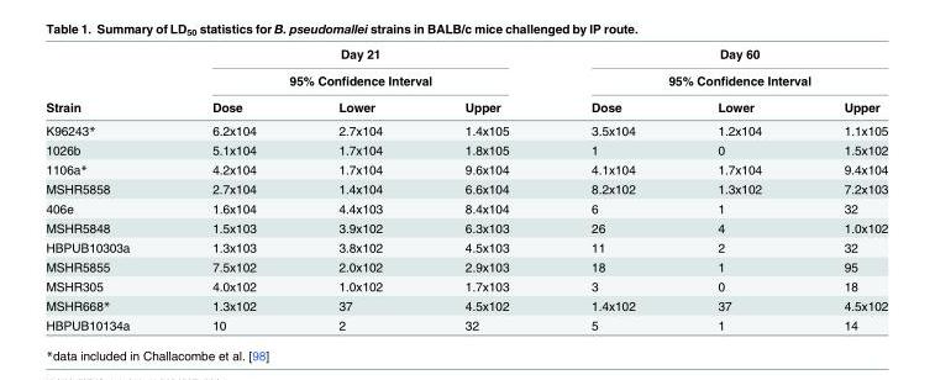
<table><thead><tr><td rowspan="3">Strain</td><td rowspan="2" colspan="3">Day 21 95% Confidence Interval</td><td rowspan="2" colspan="3">Day 60 95% Confidence Interval</td></tr><tr></tr><tr><td>Dose</td><td>Lower</td><td>Upper</td><td>Dose</td><td>Lower</td><td>Upper</td></tr></thead><tbody><tr><td>K96243*</td><td>6.2x104</td><td>2.7x104</td><td>1.4x105</td><td>3.5x104</td><td>1.2x104</td><td>1.1x105</td></tr><tr><td>1026b</td><td>5.1x104</td><td>1.7x104</td><td>1.8x105</td><td>1</td><td>0</td><td>1.5x102</td></tr><tr><td>1106a*</td><td>4.2x104</td><td>1.7x104</td><td>9.6x104</td><td>4.1x104</td><td>1.7x104</td><td>9.4x104</td></tr><tr><td>MSHR5858</td><td>2.7x104</td><td>1.4x104</td><td>6.6x104</td><td>8.2x102</td><td>1.3x102</td><td>7.2x103</td></tr><tr><td>406e</td><td>1.6x104</td><td>4.4x103</td><td>8.4x104</td><td>6</td><td>1</td><td>32</td></tr><tr><td>MSHR5848</td><td>1.5x103</td><td>3.9x102</td><td>6.3x103</td><td>26</td><td>4</td><td>1.0x102</td></tr><tr><td>HBPUB10303a</td><td>1.3x103</td><td>3.8x102</td><td>4.5x103</td><td>11</td><td>2</td><td>32</td></tr><tr><td>MSHR5855</td><td>7.5x102</td><td>2.0x102</td><td>2.9x103</td><td>18</td><td>1</td><td>95</td></tr><tr><td>MSHR305</td><td>4.0x102</td><td>1.0x102</td><td>1.7x103</td><td>3</td><td>0</td><td>18</td></tr><tr><td>MSHR668*</td><td>1.3x102</td><td>37</td><td>4.5x102</td><td>1.4x102</td><td>37</td><td>4.5x102</td></tr><tr><td>HBPUB10134a</td><td>10</td><td>2</td><td>32</td><td>5</td><td>1</td><td>14</td></tr></tbody></table>